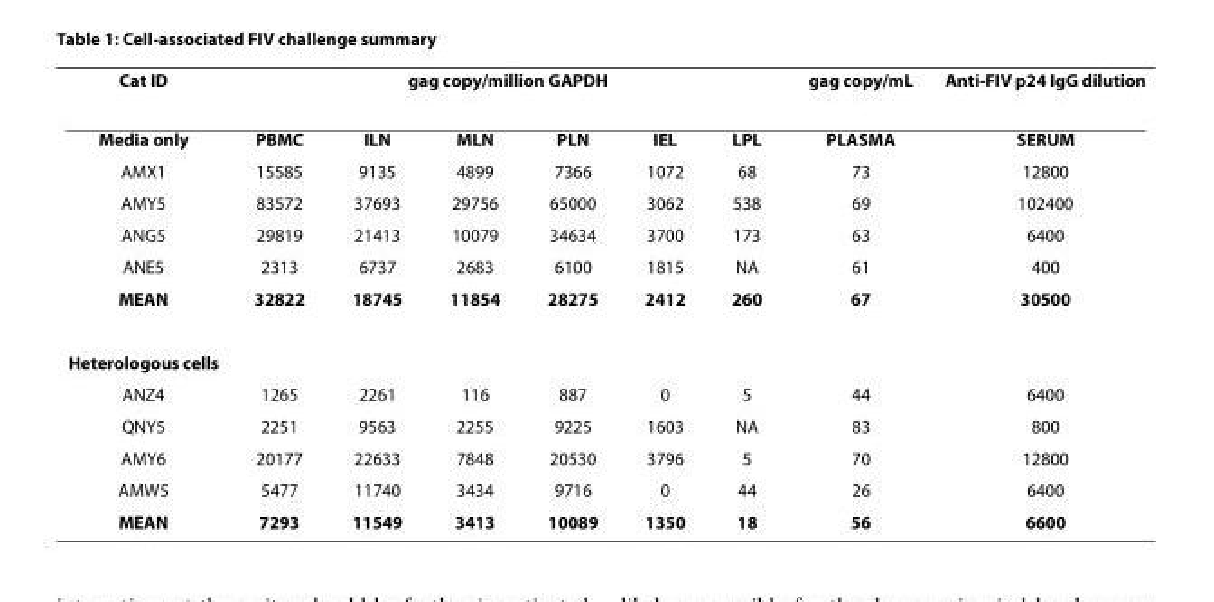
<table><thead><tr><td rowspan="2">Cat ID Media only</td><td colspan="6">gag copy/million GAPDH</td><td rowspan="2">gag copy/mL PLASMA</td><td rowspan="2">Anti-FIV p24 IgG dilution SERUM</td></tr><tr><td>PBMC</td><td>ILN</td><td>MLN</td><td>PLN</td><td>IEL</td><td>LPL</td></tr></thead><tbody><tr><td>AMX1</td><td>15585</td><td>9135</td><td>4899</td><td>7366</td><td>1072</td><td>68</td><td>73</td><td>12800</td></tr><tr><td>AMY5</td><td>83572</td><td>37693</td><td>29756</td><td>65000</td><td>3062</td><td>538</td><td>69</td><td>102400</td></tr><tr><td>ANG5</td><td>29819</td><td>21413</td><td>10079</td><td>34634</td><td>3700</td><td>173</td><td>63</td><td>6400</td></tr><tr><td>ANE5</td><td>2313</td><td>6737</td><td>2683</td><td>6100</td><td>1815</td><td>NA</td><td>61</td><td>400</td></tr><tr><td>MEAN</td><td>32822</td><td>18745</td><td>11854</td><td>28275</td><td>2412</td><td>260</td><td>67</td><td>30500</td></tr><tr><td colspan="9">Heterologous cells</td></tr><tr><td>ANZ4</td><td>1265</td><td>2261</td><td>116</td><td>887</td><td>0</td><td>5</td><td>44</td><td>6400</td></tr><tr><td>QNY5</td><td>2251</td><td>9563</td><td>2255</td><td>9225</td><td>1603</td><td>NA</td><td>83</td><td>800</td></tr><tr><td>AMY6</td><td>20177</td><td>22633</td><td>7848</td><td>20530</td><td>3796</td><td>5</td><td>70</td><td>12800</td></tr><tr><td>AMW5</td><td>5477</td><td>11740</td><td>3434</td><td>9716</td><td>0</td><td>44</td><td>26</td><td>6400</td></tr><tr><td>MEAN</td><td>7293</td><td>11549</td><td>3413</td><td>10089</td><td>1350</td><td>18</td><td>56</td><td>6600</td></tr></tbody></table>